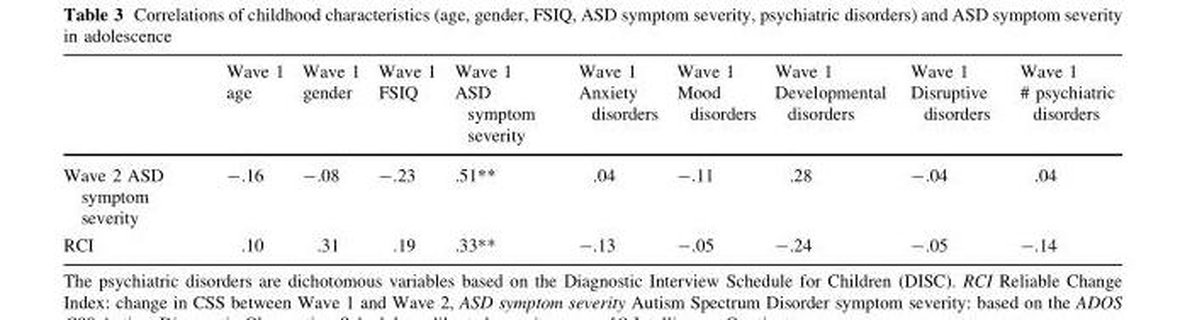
<table><thead><tr><td></td><td>Wave 1 age</td><td>Wave 1 gender</td><td>Wave 1 FSIQ</td><td>Wave 1 ASD symptom severity</td><td>Wave 1 Anxiety disorders</td><td>Wave 1 Mood disorders</td><td>Wave 1 Developmental disorders</td><td>Wave 1 Disruptive disorders</td><td>Wave 1 # psychiatric disorders</td></tr></thead><tbody><tr><td>Wave 2 ASD symptom severity</td><td>-.16</td><td>-.08</td><td>-.23</td><td>.51**</td><td>.04</td><td>-.11</td><td>.28</td><td>-.04</td><td>.04</td></tr><tr><td>RCI</td><td>.10</td><td>.31</td><td>.19</td><td>.33**</td><td>-.13</td><td>-.05</td><td>-.24</td><td>-.05</td><td>-.14</td></tr></tbody></table>